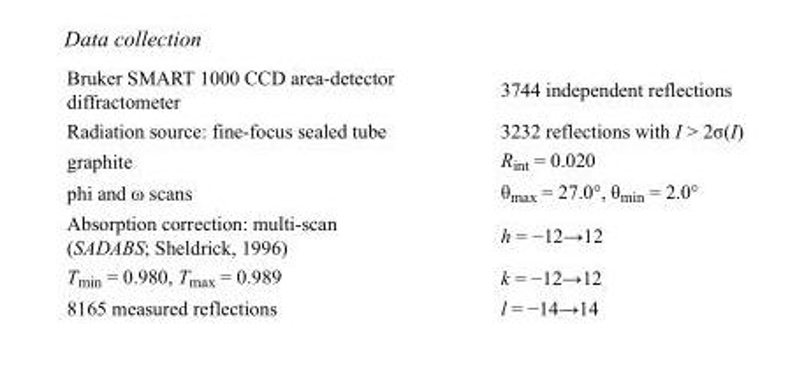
<table><tbody><tr><td>Bruker SMART 1000 CCD area-detector diffractometer</td><td>3744 independent reflections</td></tr><tr><td>Radiation source: fine-focus sealed tube</td><td>3232 reflections with I &gt; 2σ(I)</td></tr><tr><td>graphite</td><td>R<sub>int</sub> = 0.020</td></tr><tr><td>phi and ω scans</td><td>θ<sub>max</sub> = 27.0°, θ<sub>min</sub> = 2.0°</td></tr><tr><td>Absorption correction: multi-scan (SADABS; Sheldrick, 1996)</td><td>h = −12→12</td></tr><tr><td>T<sub>min</sub> = 0.980, T<sub>max</sub> = 0.989</td><td>k = −12→12</td></tr><tr><td>8165 measured reflections</td><td>l = −14→14</td></tr></tbody></table>